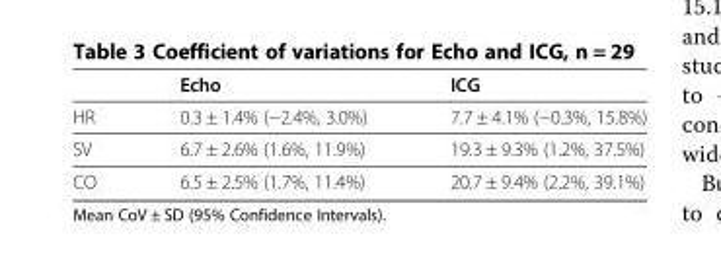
<table><thead><tr><td></td><td>Echo</td><td>ICG</td></tr></thead><tbody><tr><td>HR</td><td>0.3 ± 1.4% (−2.4%, 3.0%)</td><td>7.7 ± 4.1% (−0.3%, 15.8%)</td></tr><tr><td>SV</td><td>6.7 ± 2.6% (1.6%, 11.9%)</td><td>19.3 ± 9.3% (1.2%, 37.5%)</td></tr><tr><td>CO</td><td>6.5 ± 2.5% (1.7%, 11.4%)</td><td>20.7 ± 9.4% (2.2%, 39.1%)</td></tr></tbody></table>